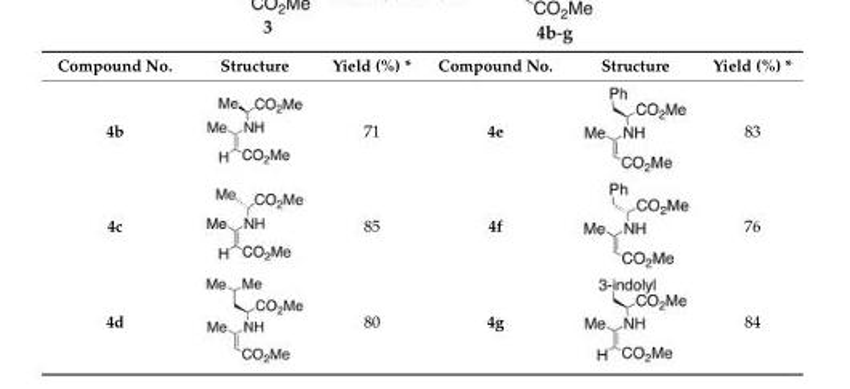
<table><thead><tr><td>Compound No.</td><td>Structure</td><td>Yield (%) *</td><td>Compound No.</td><td>Structure</td><td>Yield (%) *</td></tr></thead><tbody><tr><td>4b</td><td></td><td>71</td><td>4e</td><td></td><td>83</td></tr><tr><td>4c</td><td></td><td>85</td><td>4f</td><td></td><td>76</td></tr><tr><td>4d</td><td></td><td>80</td><td>4g</td><td></td><td>84</td></tr></tbody></table>